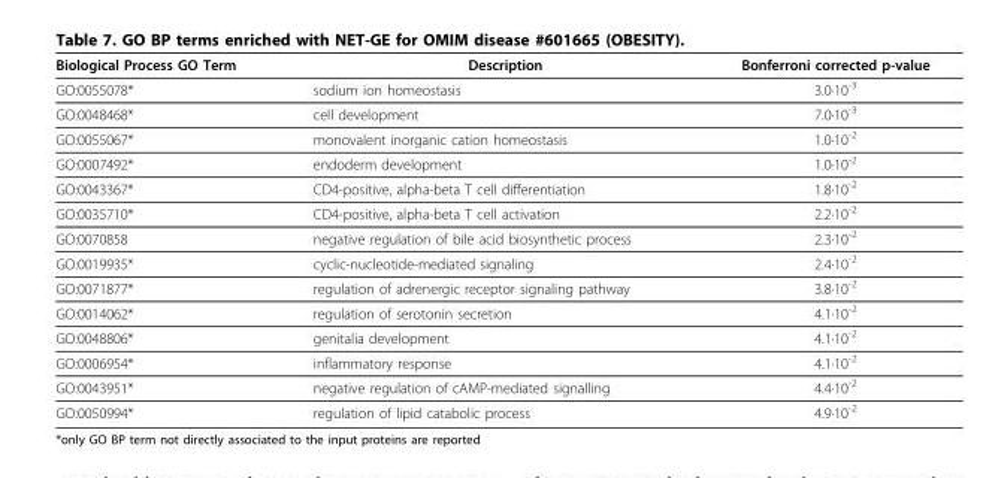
<table><thead><tr><td>Biological Process GO Term</td><td>Description</td><td>Bonferroni corrected p-value</td></tr></thead><tbody><tr><td>GO:0055078*</td><td>sodium ion homeostasis</td><td>3.0·10<sup>-3</sup></td></tr><tr><td>GO:0048468*</td><td>cell development</td><td>7.0·10<sup>-3</sup></td></tr><tr><td>GO:0055067*</td><td>monovalent inorganic cation homeostasis</td><td>1.0·10<sup>-2</sup></td></tr><tr><td>GO:0007492*</td><td>endoderm development</td><td>1.0·10<sup>-2</sup></td></tr><tr><td>GO:0043367*</td><td>CD4-positive, alpha-beta T cell differentiation</td><td>1.8·10<sup>-2</sup></td></tr><tr><td>GO:0035710*</td><td>CD4-positive, alpha-beta T cell activation</td><td>2.2·10<sup>-2</sup></td></tr><tr><td>GO:0070858</td><td>negative regulation of bile acid biosynthetic process</td><td>2.3·10<sup>-2</sup></td></tr><tr><td>GO:0019935*</td><td>cyclic-nucleotide-mediated signaling</td><td>2.4·10<sup>-2</sup></td></tr><tr><td>GO:0071877*</td><td>regulation of adrenergic receptor signaling pathway</td><td>3.8·10<sup>-2</sup></td></tr><tr><td>GO:0014062*</td><td>regulation of serotonin secretion</td><td>4.1·10<sup>-2</sup></td></tr><tr><td>GO:0048806*</td><td>genitalia development</td><td>4.1·10<sup>-2</sup></td></tr><tr><td>GO:0006954*</td><td>inflammatory response</td><td>4.1·10<sup>-2</sup></td></tr><tr><td>GO:0043951*</td><td>negative regulation of cAMP-mediated signalling</td><td>4.4·10<sup>-2</sup></td></tr><tr><td>GO:0050994*</td><td>regulation of lipid catabolic process</td><td>4.9·10<sup>-2</sup></td></tr></tbody></table>